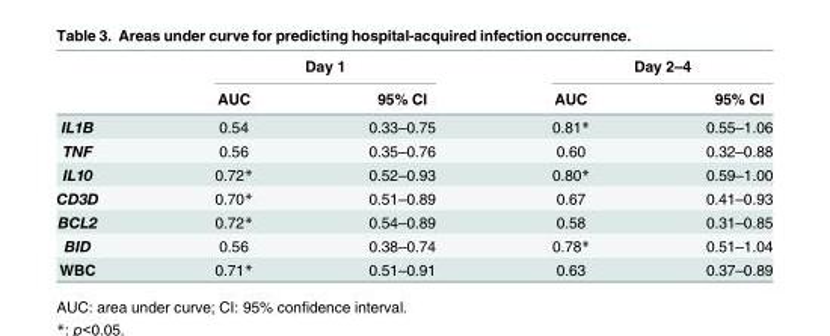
<table><thead><tr><td rowspan="2"></td><td colspan="2">Day 1</td><td colspan="2">Day 2–4</td></tr><tr><td>AUC</td><td>95% CI</td><td>AUC</td><td>95% CI</td></tr></thead><tbody><tr><td>IL1B</td><td>0.54</td><td>0.33–0.75</td><td>0.81*</td><td>0.55–1.06</td></tr><tr><td>TNF</td><td>0.56</td><td>0.35–0.76</td><td>0.60</td><td>0.32–0.88</td></tr><tr><td>IL10</td><td>0.72*</td><td>0.52–0.93</td><td>0.80*</td><td>0.59–1.00</td></tr><tr><td>CD3D</td><td>0.70*</td><td>0.51–0.89</td><td>0.67</td><td>0.41–0.93</td></tr><tr><td>BCL2</td><td>0.72*</td><td>0.54–0.89</td><td>0.58</td><td>0.31–0.85</td></tr><tr><td>BID</td><td>0.56</td><td>0.38–0.74</td><td>0.78*</td><td>0.51–1.04</td></tr><tr><td>WBC</td><td>0.71*</td><td>0.51–0.91</td><td>0.63</td><td>0.37–0.89</td></tr></tbody></table>